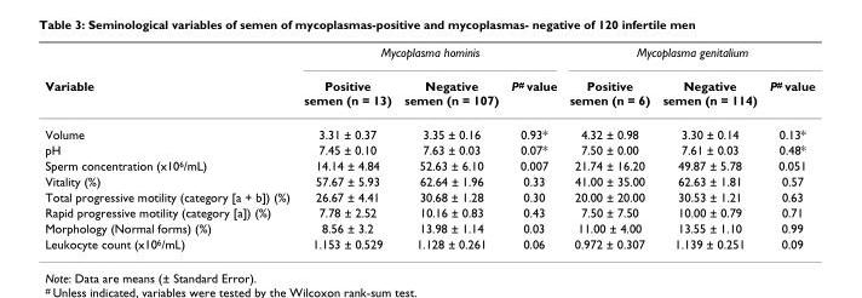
<table><thead><tr><td rowspan="2">Variable</td><td colspan="3">Mycoplasma hominis</td><td colspan="3">Mycoplasma genitalium</td></tr><tr><td>Positive semen (n = 13)</td><td>Negative semen (n = 107)</td><td>P<sup>#</sup> value</td><td>Positive semen (n = 6)</td><td>Negative semen (n = 114)</td><td>P<sup>#</sup> value</td></tr></thead><tbody><tr><td>Volume</td><td>3.31 ± 0.37</td><td>3.35 ± 0.16</td><td>0.93*</td><td>4.32 ± 0.98</td><td>3.30 ± 0.14</td><td>0.13*</td></tr><tr><td>pH</td><td>7.45 ± 0.10</td><td>7.63 ± 0.03</td><td>0.07*</td><td>7.50 ± 0.00</td><td>7.61 ± 0.03</td><td>0.48*</td></tr><tr><td>Sperm concentration (x10<sup>6</sup>/mL)</td><td>14.14 ± 4.84</td><td>52.63 ± 6.10</td><td>0.007</td><td>21.74 ± 16.20</td><td>49.87 ± 5.78</td><td>0.051</td></tr><tr><td>Vitality (%)</td><td>57.67 ± 5.93</td><td>62.64 ± 1.96</td><td>0.33</td><td>41.00 ± 35.00</td><td>62.63 ± 1.81</td><td>0.57</td></tr><tr><td>Total progressive motility (category [a + b]) (%)</td><td>26.67 ± 4.41</td><td>30.68 ± 1.28</td><td>0.30</td><td>20.00 ± 20.00</td><td>30.53 ± 1.21</td><td>0.63</td></tr><tr><td>Rapid progressive motility (category [a]) (%)</td><td>7.78 ± 2.52</td><td>10.16 ± 0.83</td><td>0.43</td><td>7.50 ± 7.50</td><td>10.00 ± 0.79</td><td>0.71</td></tr><tr><td>Morphology (Normal forms) (%)</td><td>8.56 ± 3.2</td><td>13.98 ± 1.14</td><td>0.03</td><td>11.00 ± 4.00</td><td>13.55 ± 1.10</td><td>0.99</td></tr><tr><td>Leukocyte count (x10<sup>6</sup>/mL)</td><td>1.153 ± 0.529</td><td>1.128 ± 0.261</td><td>0.06</td><td>0.972 ± 0.307</td><td>1.139 ± 0.251</td><td>0.09</td></tr></tbody></table>